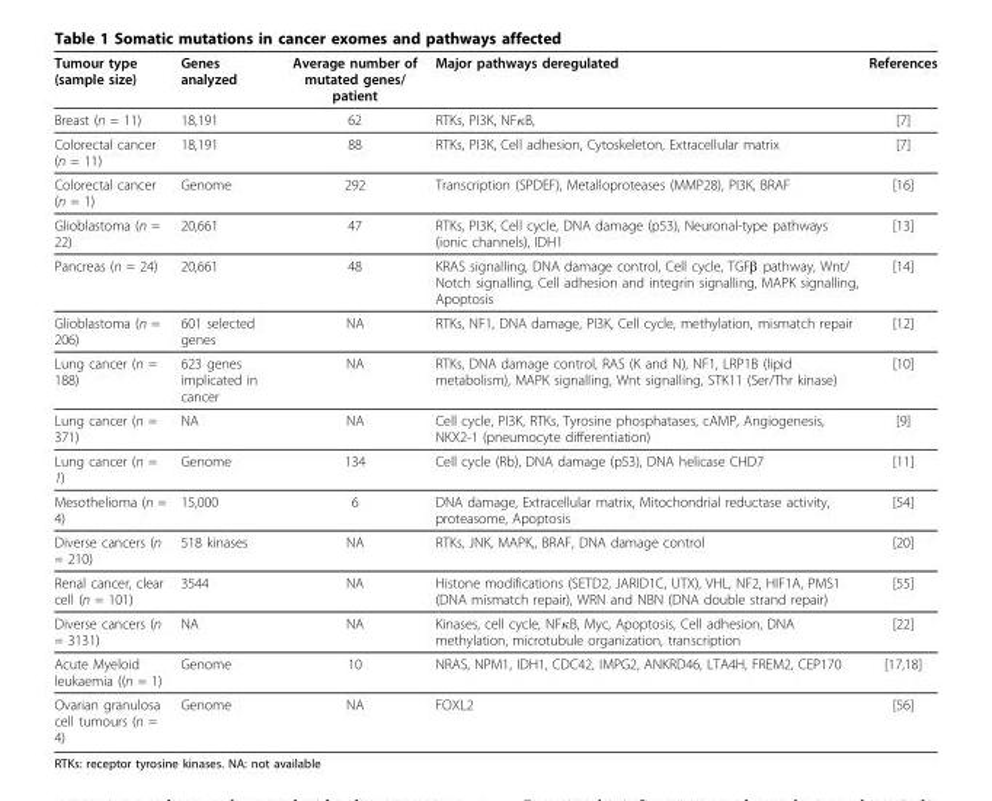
<table><thead><tr><td>Tumour type (sample size)</td><td>Genes analyzed</td><td>Average number of mutated genes/ patient</td><td>Major pathways deregulated</td><td>References</td></tr></thead><tbody><tr><td>Breast (n = 11)</td><td>18,191</td><td>62</td><td>RTKs, PI3K, NFκB,</td><td>[7]</td></tr><tr><td>Colorectal cancer (n = 11)</td><td>18,191</td><td>88</td><td>RTKs, PI3K, Cell adhesion, Cytoskeleton, Extracellular matrix</td><td>[7]</td></tr><tr><td>Colorectal cancer (n = 1)</td><td>Genome</td><td>292</td><td>Transcription (SPDEF), Metalloproteases (MMP28), PI3K, BRAF</td><td>[16]</td></tr><tr><td>Glioblastoma (n = 22)</td><td>20,661</td><td>47</td><td>RTKs, PI3K, Cell cycle, DNA damage (p53), Neuronal-type pathways (ionic channels), IDH1</td><td>[13]</td></tr><tr><td>Pancreas (n = 24)</td><td>20,661</td><td>48</td><td>KRAS signalling, DNA damage control, Cell cycle, TGFβ pathway, Wnt/ Notch signalling, Cell adhesion and integrin signalling, MAPK signalling, Apoptosis</td><td>[14]</td></tr><tr><td>Glioblastoma (n = 206)</td><td>601 selected genes</td><td>NA</td><td>RTKs, NF1, DNA damage, PI3K, Cell cycle, methylation, mismatch repair</td><td>[12]</td></tr><tr><td>Lung cancer (n = 188)</td><td>623 genes implicated in cancer</td><td>NA</td><td>RTKs, DNA damage control, RAS (K and N), NF1, LRP1B (lipid metabolism), MAPK signalling, Wnt signalling, STK11 (Ser/Thr kinase)</td><td>[10]</td></tr><tr><td>Lung cancer (n = 371)</td><td>NA</td><td>NA</td><td>Cell cycle, PI3K, RTKs, Tyrosine phosphatases, cAMP, Angiogenesis, NKX2-1 (pneumocyte differentiation)</td><td>[9]</td></tr><tr><td>Lung cancer (n = 1)</td><td>Genome</td><td>134</td><td>Cell cycle (Rb), DNA damage (p53), DNA helicase CHD7</td><td>[11]</td></tr><tr><td>Mesothelioma (n = 4)</td><td>15,000</td><td>6</td><td>DNA damage, Extracellular matrix, Mitochondrial reductase activity, proteasome, Apoptosis</td><td>[54]</td></tr><tr><td>Diverse cancers (n = 210)</td><td>518 kinases</td><td>NA</td><td>RTKs, JNK, MAPK,, BRAF, DNA damage control</td><td>[20]</td></tr><tr><td>Renal cancer, clear cell (n = 101)</td><td>3544</td><td>NA</td><td>Histone modifications (SETD2, JARID1C, UTX), VHL, NF2, HIF1A, PMS1 (DNA mismatch repair), WRN and NBN (DNA double strand repair)</td><td>[55]</td></tr><tr><td>Diverse cancers (n = 3131)</td><td>NA</td><td>NA</td><td>Kinases, cell cycle, NFκB, Myc, Apoptosis, Cell adhesion, DNA methylation, microtubule organization, transcription</td><td>[22]</td></tr><tr><td>Acute Myeloid leukaemia ((n = 1)</td><td>Genome</td><td>10</td><td>NRAS, NPM1, IDH1, CDC42, IMPG2, ANKRD46, LTA4H, FREM2, CEP170</td><td>[17,18]</td></tr><tr><td>Ovarian granulosa cell tumours (n = 4)</td><td>Genome</td><td>NA</td><td>FOXL2</td><td>[56]</td></tr></tbody></table>